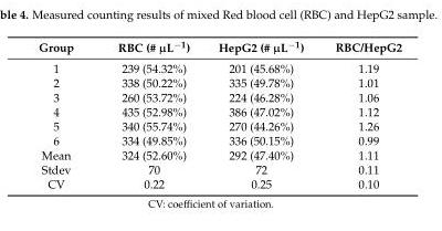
<table><thead><tr><td>Group</td><td>RBC (# µL<sup>−1</sup>)</td><td>HepG2 (# µL<sup>−1</sup>)</td><td>RBC/HepG2</td></tr></thead><tbody><tr><td>1</td><td>239 (54.32%)</td><td>201 (45.68%)</td><td>1.19</td></tr><tr><td>2</td><td>338 (50.22%)</td><td>335 (49.78%)</td><td>1.01</td></tr><tr><td>3</td><td>260 (53.72%)</td><td>224 (46.28%)</td><td>1.06</td></tr><tr><td>4</td><td>435 (52.98%)</td><td>386 (47.02%)</td><td>1.12</td></tr><tr><td>5</td><td>340 (55.74%)</td><td>270 (44.26%)</td><td>1.26</td></tr><tr><td>6</td><td>334 (49.85%)</td><td>336 (50.15%)</td><td>0.99</td></tr><tr><td>Mean</td><td>324 (52.60%)</td><td>292 (47.40%)</td><td>1.11</td></tr><tr><td>Stdev</td><td>70</td><td>72</td><td>0.11</td></tr><tr><td>CV</td><td>0.22</td><td>0.25</td><td>0.10</td></tr></tbody></table>